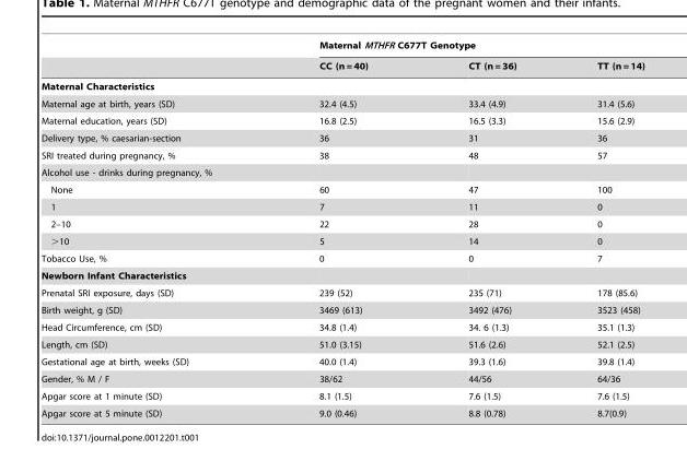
<table><thead><tr><td rowspan="2"></td><td colspan="3">Maternal MTHFR C677T Genotype</td></tr><tr><td>CC (n = 40)</td><td>CT (n = 36)</td><td>TT (n = 14)</td></tr></thead><tbody><tr><td colspan="4">Maternal Characteristics</td></tr><tr><td>Maternal age at birth, years (SD)</td><td>32.4 (4.5)</td><td>33.4 (4.9)</td><td>31.4 (5.6)</td></tr><tr><td>Maternal education, years (SD)</td><td>16.8 (2.5)</td><td>16.5 (3.3)</td><td>15.6 (2.9)</td></tr><tr><td>Delivery type, % caesarian-section</td><td>36</td><td>31</td><td>36</td></tr><tr><td>SRI treated during pregnancy, %</td><td>38</td><td>48</td><td>57</td></tr><tr><td colspan="4">Alcohol use - drinks during pregnancy, %</td></tr><tr><td>None</td><td>60</td><td>47</td><td>100</td></tr><tr><td>1</td><td>7</td><td>11</td><td>0</td></tr><tr><td>2–10</td><td>22</td><td>28</td><td>0</td></tr><tr><td>&gt;10</td><td>5</td><td>14</td><td>0</td></tr><tr><td>Tobacco Use, %</td><td>0</td><td>0</td><td>7</td></tr><tr><td colspan="4">Newborn Infant Characteristics</td></tr><tr><td>Prenatal SRI exposure, days (SD)</td><td>239 (52)</td><td>235 (71)</td><td>178 (85.6)</td></tr><tr><td>Birth weight, g (SD)</td><td>3469 (613)</td><td>3492 (476)</td><td>3523 (458)</td></tr><tr><td>Head Circumference, cm (SD)</td><td>34.8 (1.4)</td><td>34. 6 (1.3)</td><td>35.1 (1.3)</td></tr><tr><td>Length, cm (SD)</td><td>51.0 (3.15)</td><td>51.6 (2.6)</td><td>52.1 (2.5)</td></tr><tr><td>Gestational age at birth, weeks (SD)</td><td>40.0 (1.4)</td><td>39.3 (1.6)</td><td>39.8 (1.4)</td></tr><tr><td>Gender, % M / F</td><td>38/62</td><td>44/56</td><td>64/36</td></tr><tr><td>Apgar score at 1 minute (SD)</td><td>8.1 (1.5)</td><td>7.6 (1.5)</td><td>7.6 (1.5)</td></tr><tr><td>Apgar score at 5 minute (SD)</td><td>9.0 (0.46)</td><td>8.8 (0.78)</td><td>8.7(0.9)</td></tr></tbody></table>